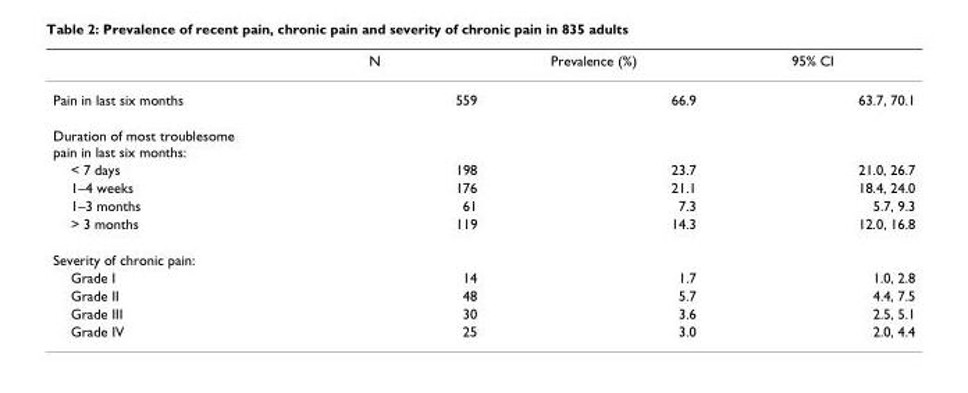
<table><thead><tr><td></td><td>N</td><td>Prevalence (%)</td><td>95% CI</td></tr></thead><tbody><tr><td>Pain in last six months</td><td>559</td><td>66.9</td><td>63.7, 70.1</td></tr><tr><td colspan="4">Duration of most troublesome pain in last six months:</td></tr><tr><td>&lt; 7 days</td><td>198</td><td>23.7</td><td>21.0, 26.7</td></tr><tr><td>1–4 weeks</td><td>176</td><td>21.1</td><td>18.4, 24.0</td></tr><tr><td>1–3 months</td><td>61</td><td>7.3</td><td>5.7, 9.3</td></tr><tr><td>&gt; 3 months</td><td>119</td><td>14.3</td><td>12.0, 16.8</td></tr><tr><td colspan="4">Severity of chronic pain:</td></tr><tr><td>Grade I</td><td>14</td><td>1.7</td><td>1.0, 2.8</td></tr><tr><td>Grade II</td><td>48</td><td>5.7</td><td>4.4, 7.5</td></tr><tr><td>Grade III</td><td>30</td><td>3.6</td><td>2.5, 5.1</td></tr><tr><td>Grade IV</td><td>25</td><td>3.0</td><td>2.0, 4.4</td></tr></tbody></table>